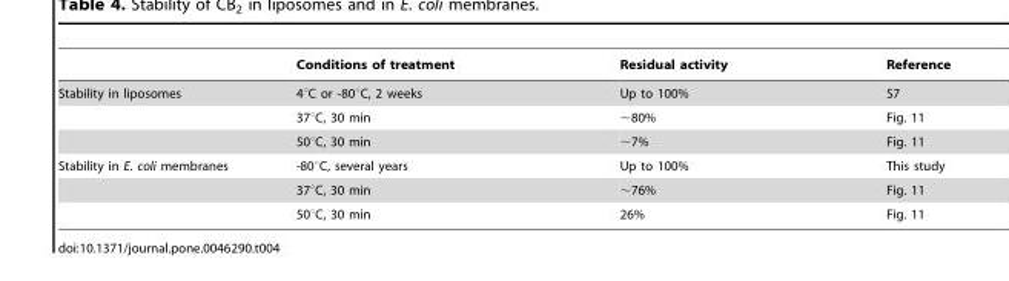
<table><thead><tr><td></td><td>Conditions of treatment</td><td>Residual activity</td><td>Reference</td></tr></thead><tbody><tr><td rowspan="3">Stability in liposomes</td><td>4°C or -80°C, 2 weeks</td><td>Up to 100%</td><td>S7</td></tr><tr><td>37°C, 30 min</td><td>∼80%</td><td>Fig. 11</td></tr><tr><td>50°C, 30 min</td><td>∼7%</td><td>Fig. 11</td></tr><tr><td rowspan="3">Stability in E. coli membranes</td><td>-80°C, several years</td><td>Up to 100%</td><td>This study</td></tr><tr><td>37°C, 30 min</td><td>∼76%</td><td>Fig. 11</td></tr><tr><td>50°C, 30 min</td><td>26%</td><td>Fig. 11</td></tr></tbody></table>